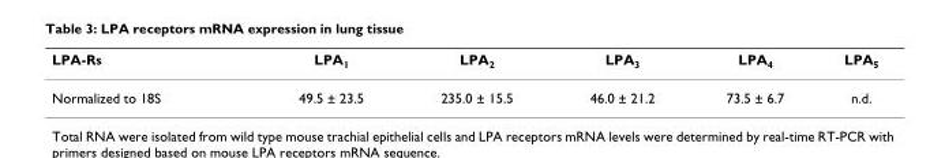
<table><thead><tr><td>LPA-Rs</td><td>LPA<sub>1</sub></td><td>LPA<sub>2</sub></td><td>LPA<sub>3</sub></td><td>LPA<sub>4</sub></td><td>LPA<sub>5</sub></td></tr></thead><tbody><tr><td>Normalized to 18S</td><td>49.5 ± 23.5</td><td>235.0 ± 15.5</td><td>46.0 ± 21.2</td><td>73.5 ± 6.7</td><td>n.d.</td></tr></tbody></table>